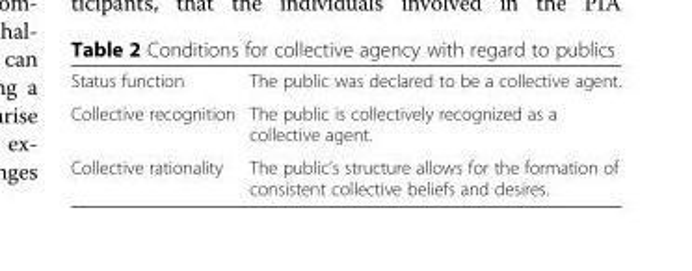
<table><tbody><tr><td>Status function</td><td>The public was declared to be a collective agent.</td></tr><tr><td>Collective recognition</td><td>The public is collectively recognized as a collective agent.</td></tr><tr><td>Collective rationality</td><td>The public’s structure allows for the formation of consistent collective beliefs and desires.</td></tr></tbody></table>